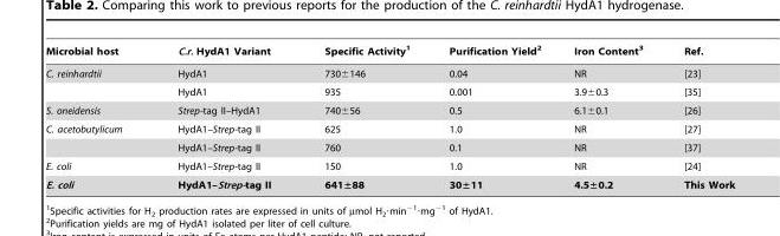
<table><thead><tr><td>Microbial host</td><td>C.r. HydA1 Variant</td><td>Specific Activity<sup>1</sup></td><td>Purification Yield<sup>2</sup></td><td>Iron Content<sup>3</sup></td><td>Ref.</td></tr></thead><tbody><tr><td rowspan="2">C. reinhardtii</td><td>HydA1</td><td>730±146</td><td>0.04</td><td>NR</td><td>[23]</td></tr><tr><td>HydA1</td><td>935</td><td>0.001</td><td>3.9±0.3</td><td>[35]</td></tr><tr><td>S. oneidensis</td><td>Strep-tag II–HydA1</td><td>740±56</td><td>0.5</td><td>6.1±0.1</td><td>[26]</td></tr><tr><td rowspan="2">C. acetobutylicum</td><td>HydA1–Strep-tag II</td><td>625</td><td>1.0</td><td>NR</td><td>[27]</td></tr><tr><td>HydA1–Strep-tag II</td><td>760</td><td>0.1</td><td>NR</td><td>[37]</td></tr><tr><td>E. coli</td><td>HydA1–Strep-tag II</td><td>150</td><td>1.0</td><td>NR</td><td>[24]</td></tr><tr><td>E. coli</td><td>HydA1–Strep-tag II</td><td>641±88</td><td>30±11</td><td>4.5±0.2</td><td>This Work</td></tr></tbody></table>